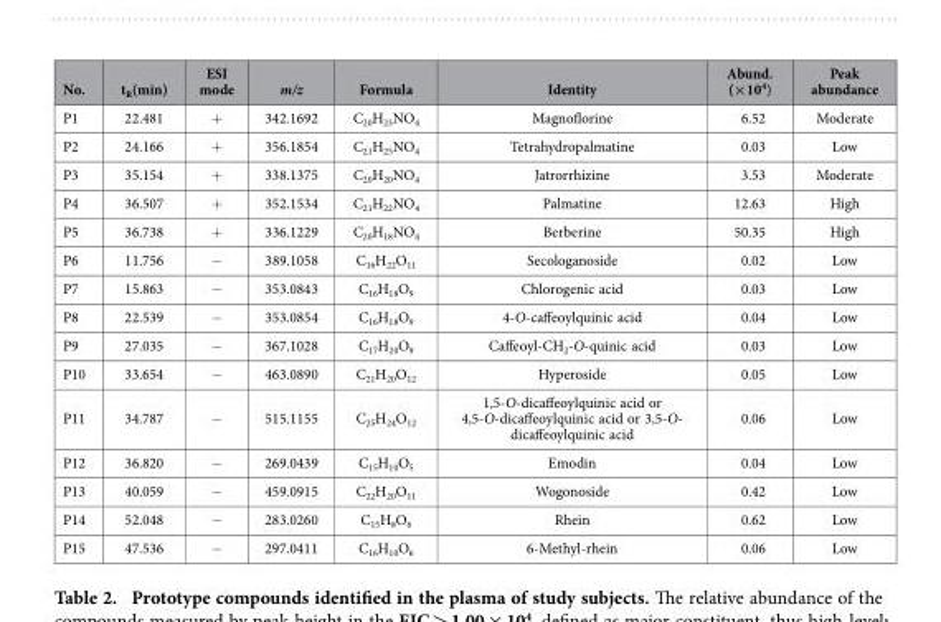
<table><thead><tr><td>No.</td><td>t<sub>R</sub>(min)</td><td>ESI mode</td><td>m/z</td><td>Formula</td><td>Identity</td><td>Abund. (×10<sup>4</sup>)</td><td>Peak abundance</td></tr></thead><tbody><tr><td>P1</td><td>22.481</td><td>+</td><td>342.1692</td><td>C<sub>20</sub>H<sub>23</sub>NO<sub>4</sub></td><td>Magnoflorine</td><td>6.52</td><td>Moderate</td></tr><tr><td>P2</td><td>24.166</td><td>+</td><td>356.1854</td><td>C<sub>21</sub>H<sub>25</sub>NO<sub>4</sub></td><td>Tetrahydropalmatine</td><td>0.03</td><td>Low</td></tr><tr><td>P3</td><td>35.154</td><td>+</td><td>338.1375</td><td>C<sub>20</sub>H<sub>20</sub>NO<sub>4</sub></td><td>Jatrorrhizine</td><td>3.53</td><td>Moderate</td></tr><tr><td>P4</td><td>36.507</td><td>+</td><td>352.1534</td><td>C<sub>21</sub>H<sub>22</sub>NO<sub>4</sub></td><td>Palmatine</td><td>12.63</td><td>High</td></tr><tr><td>P5</td><td>36.738</td><td>+</td><td>336.1229</td><td>C<sub>20</sub>H<sub>18</sub>NO<sub>4</sub></td><td>Berberine</td><td>50.35</td><td>High</td></tr><tr><td>P6</td><td>11.756</td><td>−</td><td>389.1058</td><td>C<sub>16</sub>H<sub>22</sub>O<sub>11</sub></td><td>Secologanoside</td><td>0.02</td><td>Low</td></tr><tr><td>P7</td><td>15.863</td><td>−</td><td>353.0843</td><td>C<sub>16</sub>H<sub>18</sub>O<sub>9</sub></td><td>Chlorogenic acid</td><td>0.03</td><td>Low</td></tr><tr><td>P8</td><td>22.539</td><td>−</td><td>353.0854</td><td>C<sub>16</sub>H<sub>18</sub>O<sub>9</sub></td><td>4-O-caffeoylquinic acid</td><td>0.04</td><td>Low</td></tr><tr><td>P9</td><td>27.035</td><td>−</td><td>367.1028</td><td>C<sub>17</sub>H<sub>20</sub>O<sub>9</sub></td><td>Caffeoyl-CH<sub>2</sub>-O-quinic acid</td><td>0.03</td><td>Low</td></tr><tr><td>P10</td><td>33.654</td><td>−</td><td>463.0890</td><td>C<sub>21</sub>H<sub>20</sub>O<sub>12</sub></td><td>Hyperoside</td><td>0.05</td><td>Low</td></tr><tr><td>P11</td><td>34.787</td><td>−</td><td>515.1155</td><td>C<sub>25</sub>H<sub>24</sub>O<sub>12</sub></td><td>1,5-O-dicaffeoylquinic acid or 4,5-O-dicaffeoylquinic acid or 3,5-O- dicaffeoylquinic acid</td><td>0.06</td><td>Low</td></tr><tr><td>P12</td><td>36.820</td><td>−</td><td>269.0439</td><td>C<sub>15</sub>H<sub>10</sub>O<sub>5</sub></td><td>Emodin</td><td>0.04</td><td>Low</td></tr><tr><td>P13</td><td>40.059</td><td>−</td><td>459.0915</td><td>C<sub>22</sub>H<sub>20</sub>O<sub>11</sub></td><td>Wogonoside</td><td>0.42</td><td>Low</td></tr><tr><td>P14</td><td>52.048</td><td>−</td><td>283.0260</td><td>C<sub>15</sub>H<sub>8</sub>O<sub>6</sub></td><td>Rhein</td><td>0.62</td><td>Low</td></tr><tr><td>P15</td><td>47.536</td><td>−</td><td>297.0411</td><td>C<sub>16</sub>H<sub>10</sub>O<sub>6</sub></td><td>6-Methyl-rhein</td><td>0.06</td><td>Low</td></tr></tbody></table>